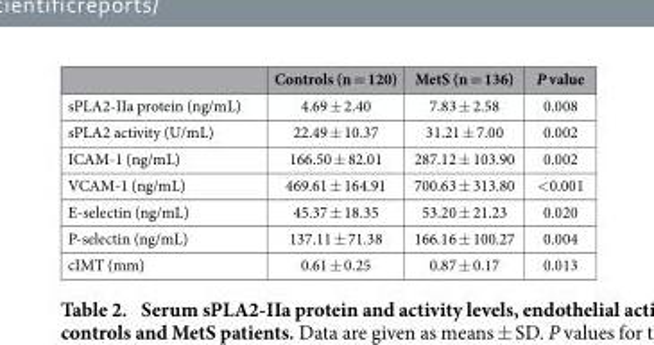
<table><thead><tr><td></td><td>Controls (n = 120)</td><td>MetS (n = 136)</td><td>P value</td></tr></thead><tbody><tr><td>sPLA2-IIa protein (ng/mL)</td><td>4.69 ± 2.40</td><td>7.83 ± 2.58</td><td>0.008</td></tr><tr><td>sPLA2 activity (U/mL)</td><td>22.49 ± 10.37</td><td>31.21 ± 7.00</td><td>0.002</td></tr><tr><td>ICAM-1 (ng/mL)</td><td>166.50 ± 82.01</td><td>287.12 ± 103.90</td><td>0.002</td></tr><tr><td>VCAM-1 (ng/mL)</td><td>469.61 ± 164.91</td><td>700.63 ± 313.80</td><td>&lt; 0.001</td></tr><tr><td>E-selectin (ng/mL)</td><td>45.37 ± 18.35</td><td>53.20 ± 21.23</td><td>0.020</td></tr><tr><td>P-selectin (ng/mL)</td><td>137.11 ± 71.38</td><td>166.16 ± 100.27</td><td>0.004</td></tr><tr><td>cIMT (mm)</td><td>0.61 ± 0.25</td><td>0.87 ± 0.17</td><td>0.013</td></tr></tbody></table>